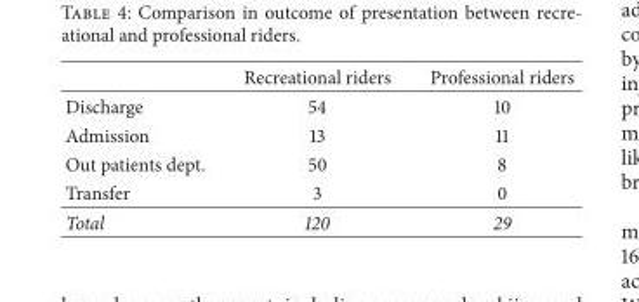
<table><thead><tr><td></td><td>Recreational riders</td><td>Professional riders</td></tr></thead><tbody><tr><td>Discharge</td><td>54</td><td>10</td></tr><tr><td>Admission</td><td>13</td><td>11</td></tr><tr><td>Out patients dept.</td><td>50</td><td>8</td></tr><tr><td>Transfer</td><td>3</td><td>0</td></tr><tr><td>Total</td><td>120</td><td>29</td></tr></tbody></table>